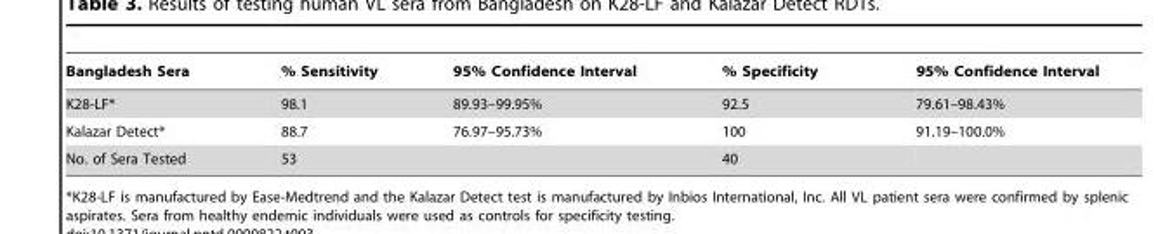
<table><thead><tr><td>Bangladesh Sera</td><td>% Sensitivity</td><td>95% Confidence Interval</td><td>% Specificity</td><td>95% Confidence Interval</td></tr></thead><tbody><tr><td>K28-LF*</td><td>98.1</td><td>89.93–99.95%</td><td>92.5</td><td>79.61–98.43%</td></tr><tr><td>Kalazar Detect*</td><td>88.7</td><td>76.97–95.73%</td><td>100</td><td>91.19–100.0%</td></tr><tr><td>No. of Sera Tested</td><td>53</td><td></td><td>40</td><td></td></tr></tbody></table>